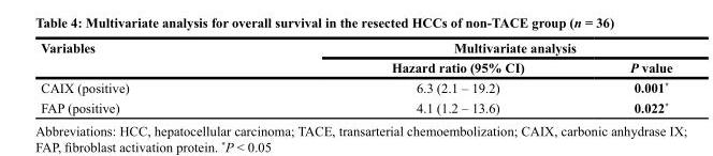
<table><thead><tr><td rowspan="2">Variables</td><td colspan="2">Multivariate analysis</td></tr><tr><td>Hazard ratio (95% CI)</td><td>P value</td></tr></thead><tbody><tr><td>CAIX (positive)</td><td>6.3 (2.1 – 19.2)</td><td>0.001*</td></tr><tr><td>FAP (positive)</td><td>4.1 (1.2 – 13.6)</td><td>0.022*</td></tr></tbody></table>